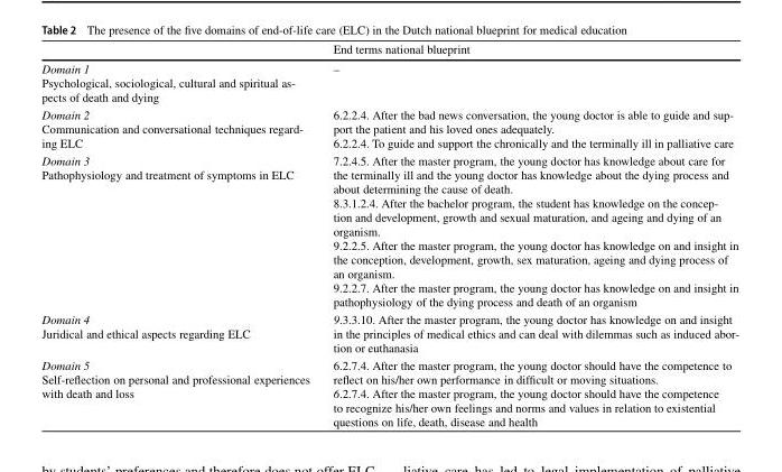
<table><thead><tr><td></td><td>End terms national blueprint</td></tr></thead><tbody><tr><td>Domain 1 Psychological, sociological, cultural and spiritual as- pects of death and dying</td><td>–</td></tr><tr><td>Domain 2 Communication and conversational techniques regard- ing ELC</td><td>6.2.2.4. After the bad news conversation, the young doctor is able to guide and sup- port the patient and his loved ones adequately. 6.2.2.4. To guide and support the chronically and the terminally ill in palliative care</td></tr><tr><td>Domain 3 Pathophysiology and treatment of symptoms in ELC</td><td>7.2.4.5. After the master program, the young doctor has knowledge about care for the terminally ill and the young doctor has knowledge about the dying process and about determining the cause of death. 8.3.1.2.4. After the bachelor program, the student has knowledge on the concep- tion and development, growth and sexual maturation, and ageing and dying of an organism. 9.2.2.5. After the master program, the young doctor has knowledge on and insight in the conception, development, growth, sex maturation, ageing and dying process of an organism. 9.2.2.7. After the master program, the young doctor has knowledge on and insight in pathophysiology of the dying process and death of an organism</td></tr><tr><td>Domain 4 Juridical and ethical aspects regarding ELC</td><td>9.3.3.10. After the master program, the young doctor has knowledge on and insight in the principles of medical ethics and can deal with dilemmas such as induced abor- tion or euthanasia</td></tr><tr><td>Domain 5 Self-reflection on personal and professional experiences with death and loss</td><td>6.2.7.4. After the master program, the young doctor should have the competence to reflect on his/her own performance in difficult or moving situations. 6.2.7.4. After the master program, the young doctor should have the competence to recognize his/her own feelings and norms and values in relation to existential questions on life, death, disease and health</td></tr></tbody></table>